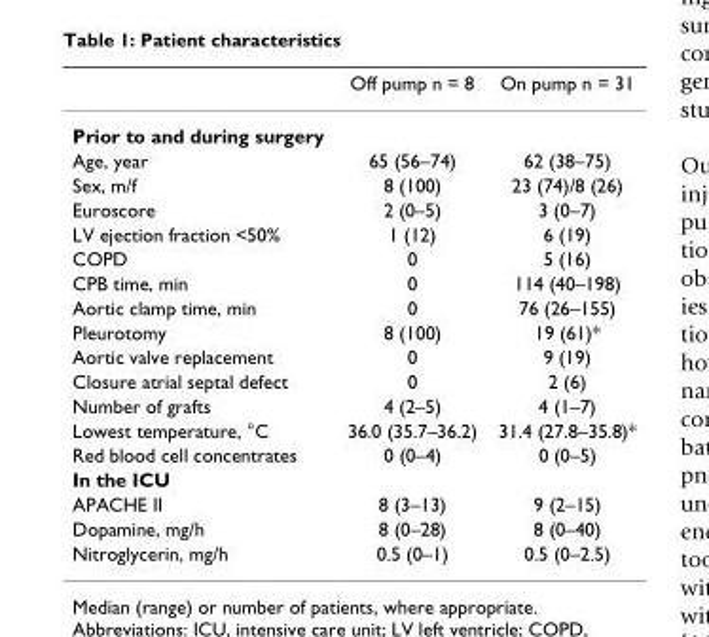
<table><thead><tr><td></td><td>Off pump n = 8</td><td>On pump n = 31</td></tr></thead><tbody><tr><td colspan="3">Prior to and during surgery</td></tr><tr><td>Age, year</td><td>65 (56–74)</td><td>62 (38–75)</td></tr><tr><td>Sex, m/f</td><td>8 (100)</td><td>23 (74)/8 (26)</td></tr><tr><td>Euroscore</td><td>2 (0–5)</td><td>3 (0–7)</td></tr><tr><td>LV ejection fraction &lt;50%</td><td>1 (12)</td><td>6 (19)</td></tr><tr><td>COPD</td><td>0</td><td>5 (16)</td></tr><tr><td>CPB time, min</td><td>0</td><td>114 (40–198)</td></tr><tr><td>Aortic clamp time, min</td><td>0</td><td>76 (26–155)</td></tr><tr><td>Pleurotomy</td><td>8 (100)</td><td>19 (61)*</td></tr><tr><td>Aortic valve replacement</td><td>0</td><td>9 (19)</td></tr><tr><td>Closure atrial septal defect</td><td>0</td><td>2 (6)</td></tr><tr><td>Number of grafts</td><td>4 (2–5)</td><td>4 (1–7)</td></tr><tr><td>Lowest temperature, °C</td><td>36.0 (35.7–36.2)</td><td>31.4 (27.8–35.8)*</td></tr><tr><td>Red blood cell concentrates</td><td>0 (0–4)</td><td>0 (0–5)</td></tr><tr><td colspan="3">In the ICU</td></tr><tr><td>APACHE II</td><td>8 (3–13)</td><td>9 (2–15)</td></tr><tr><td>Dopamine, mg/h</td><td>8 (0–28)</td><td>8 (0–40)</td></tr><tr><td>Nitroglycerin, mg/h</td><td>0.5 (0–1)</td><td>0.5 (0–2.5)</td></tr></tbody></table>